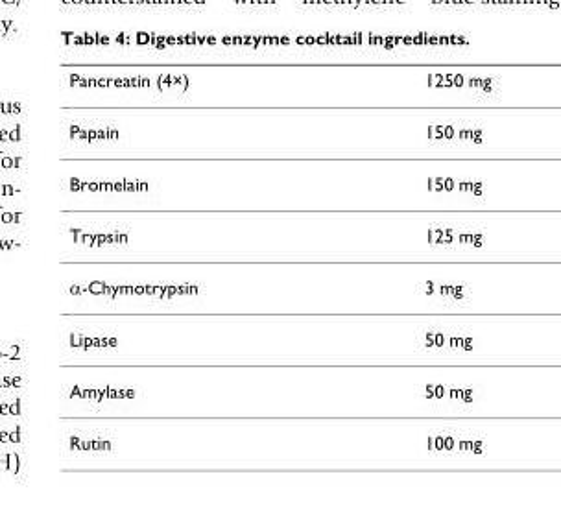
<table><thead><tr><td>Pancreatin (4×)</td><td>1250 mg</td></tr></thead><tbody><tr><td>Papain</td><td>150 mg</td></tr><tr><td>Bromelain</td><td>150 mg</td></tr><tr><td>Trypsin</td><td>125 mg</td></tr><tr><td>α-Chymotrypsin</td><td>3 mg</td></tr><tr><td>Lipase</td><td>50 mg</td></tr><tr><td>Amylase</td><td>50 mg</td></tr><tr><td>Rutin</td><td>100 mg</td></tr></tbody></table>